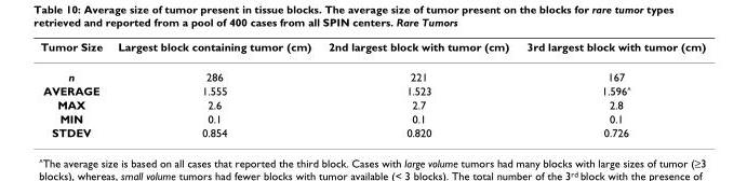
<table><thead><tr><td>Tumor Size</td><td>Largest block containing tumor (cm)</td><td>2nd largest block with tumor (cm)</td><td>3rd largest block with tumor (cm)</td></tr></thead><tbody><tr><td>n</td><td>286</td><td>221</td><td>167</td></tr><tr><td>AVERAGE</td><td>1.555</td><td>1.523</td><td>1.596^</td></tr><tr><td>MAX</td><td>2.6</td><td>2.7</td><td>2.8</td></tr><tr><td>MIN</td><td>0.1</td><td>0.1</td><td>0.1</td></tr><tr><td>STDEV</td><td>0.854</td><td>0.820</td><td>0.726</td></tr></tbody></table>